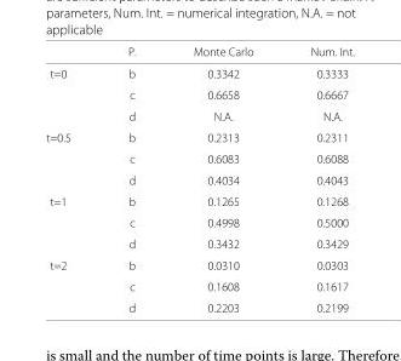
<table><thead><tr><td></td><td>P.</td><td>Monte Carlo</td><td>Num. Int.</td></tr></thead><tbody><tr><td rowspan="3">t=0</td><td>b</td><td>0.3342</td><td>0.3333</td></tr><tr><td>c</td><td>0.6658</td><td>0.6667</td></tr><tr><td>d</td><td>N.A.</td><td>N.A.</td></tr><tr><td rowspan="3">t=0.5</td><td>b</td><td>0.2313</td><td>0.2311</td></tr><tr><td>c</td><td>0.6083</td><td>0.6088</td></tr><tr><td>d</td><td>0.4034</td><td>0.4043</td></tr><tr><td rowspan="3">t=1</td><td>b</td><td>0.1265</td><td>0.1268</td></tr><tr><td>c</td><td>0.4998</td><td>0.5000</td></tr><tr><td>d</td><td>0.3432</td><td>0.3429</td></tr><tr><td rowspan="3">t=2</td><td>b</td><td>0.0310</td><td>0.0303</td></tr><tr><td>c</td><td>0.1608</td><td>0.1617</td></tr><tr><td>d</td><td>0.2203</td><td>0.2199</td></tr></tbody></table>